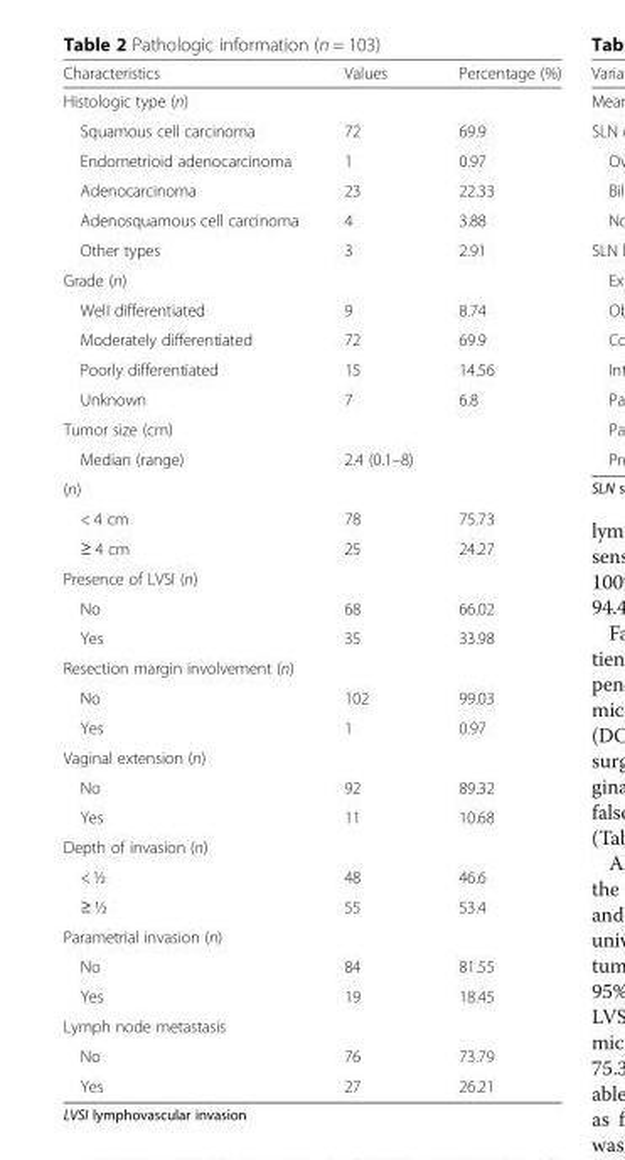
<table><thead><tr><td>Characteristics</td><td>Values</td><td>Percentage (%)</td></tr></thead><tbody><tr><td colspan="3">Histologic type (n)</td></tr><tr><td>Squamous cell carcinoma</td><td>72</td><td>69.9</td></tr><tr><td>Endometrioid adenocarcinoma</td><td>1</td><td>0.97</td></tr><tr><td>Adenocarcinoma</td><td>23</td><td>22.33</td></tr><tr><td>Adenosquamous cell carcinoma</td><td>4</td><td>3.88</td></tr><tr><td>Other types</td><td>3</td><td>2.91</td></tr><tr><td colspan="3">Grade (n)</td></tr><tr><td>Well differentiated</td><td>9</td><td>8.74</td></tr><tr><td>Moderately differentiated</td><td>72</td><td>69.9</td></tr><tr><td>Poorly differentiated</td><td>15</td><td>14.56</td></tr><tr><td>Unknown</td><td>7</td><td>6.8</td></tr><tr><td colspan="3">Tumor size (cm)</td></tr><tr><td>Median (range)</td><td>2.4 (0.1–8)</td><td></td></tr><tr><td colspan="3">(n)</td></tr><tr><td>&lt; 4 cm</td><td>78</td><td>75.73</td></tr><tr><td>≥ 4 cm</td><td>25</td><td>24.27</td></tr><tr><td colspan="3">Presence of LVSI (n)</td></tr><tr><td>No</td><td>68</td><td>66.02</td></tr><tr><td>Yes</td><td>35</td><td>33.98</td></tr><tr><td colspan="3">Resection margin involvement (n)</td></tr><tr><td>No</td><td>102</td><td>99.03</td></tr><tr><td>Yes</td><td>1</td><td>0.97</td></tr><tr><td colspan="3">Vaginal extension (n)</td></tr><tr><td>No</td><td>92</td><td>89.32</td></tr><tr><td>Yes</td><td>11</td><td>10.68</td></tr><tr><td colspan="3">Depth of invasion (n)</td></tr><tr><td>&lt; ½</td><td>48</td><td>46.6</td></tr><tr><td>≥ ½</td><td>55</td><td>53.4</td></tr><tr><td colspan="3">Parametrial invasion (n)</td></tr><tr><td>No</td><td>84</td><td>81.55</td></tr><tr><td>Yes</td><td>19</td><td>18.45</td></tr><tr><td colspan="3">Lymph node metastasis</td></tr><tr><td>No</td><td>76</td><td>73.79</td></tr><tr><td>Yes</td><td>27</td><td>26.21</td></tr></tbody></table>